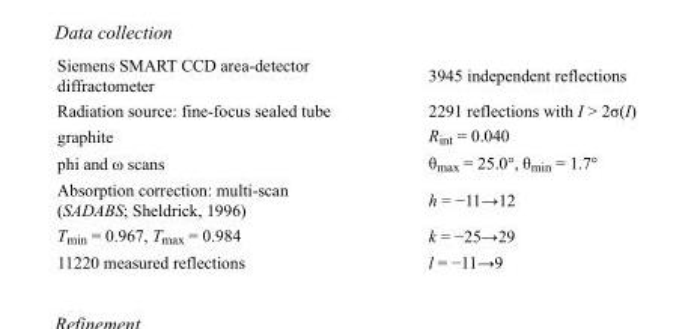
<table><tbody><tr><td>Siemens SMART CCD area-detector diffractometer</td><td>3945 independent reflections</td></tr><tr><td>Radiation source: fine-focus sealed tube</td><td>2291 reflections with I &gt; 2σ(I)</td></tr><tr><td>graphite</td><td>R<sub>int</sub> = 0.040</td></tr><tr><td>phi and ω scans</td><td>θ<sub>max</sub> = 25.0°, θ<sub>min</sub> = 1.7°</td></tr><tr><td>Absorption correction: multi-scan (SADABS; Sheldrick, 1996)</td><td>h = −11→12</td></tr><tr><td>T<sub>min</sub> = 0.967, T<sub>max</sub> = 0.984</td><td>k = −25→29</td></tr><tr><td>11220 measured reflections</td><td>l = −11→9</td></tr></tbody></table>